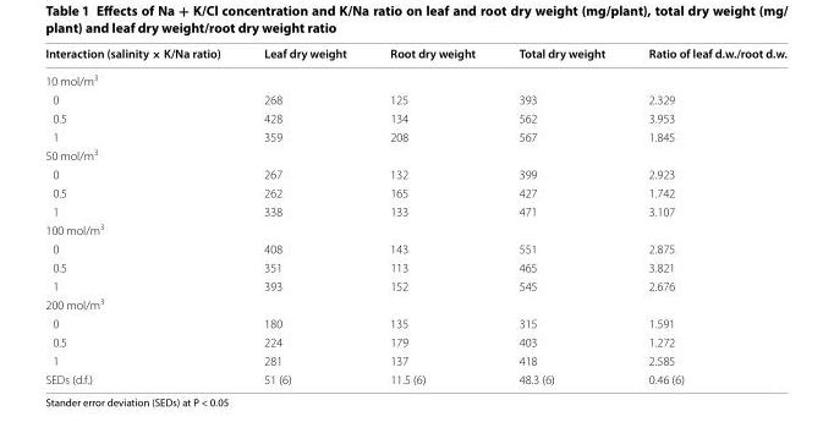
<table><thead><tr><td>Interaction (salinity × K/Na ratio)</td><td>Leaf dry weight</td><td>Root dry weight</td><td>Total dry weight</td><td>Ratio of leaf d.w./root d.w.</td></tr></thead><tbody><tr><td colspan="5">10 mol/m<sup>3</sup></td></tr><tr><td>0</td><td>268</td><td>125</td><td>393</td><td>2.329</td></tr><tr><td>0.5</td><td>428</td><td>134</td><td>562</td><td>3.953</td></tr><tr><td>1</td><td>359</td><td>208</td><td>567</td><td>1.845</td></tr><tr><td colspan="5">50 mol/m<sup>3</sup></td></tr><tr><td>0</td><td>267</td><td>132</td><td>399</td><td>2.923</td></tr><tr><td>0.5</td><td>262</td><td>165</td><td>427</td><td>1.742</td></tr><tr><td>1</td><td>338</td><td>133</td><td>471</td><td>3.107</td></tr><tr><td colspan="5">100 mol/m<sup>3</sup></td></tr><tr><td>0</td><td>408</td><td>143</td><td>551</td><td>2.875</td></tr><tr><td>0.5</td><td>351</td><td>113</td><td>465</td><td>3.821</td></tr><tr><td>1</td><td>393</td><td>152</td><td>545</td><td>2.676</td></tr><tr><td colspan="5">200 mol/m<sup>3</sup></td></tr><tr><td>0</td><td>180</td><td>135</td><td>315</td><td>1.591</td></tr><tr><td>0.5</td><td>224</td><td>179</td><td>403</td><td>1.272</td></tr><tr><td>1</td><td>281</td><td>137</td><td>418</td><td>2.585</td></tr><tr><td>SEDs (d.f.)</td><td>51 (6)</td><td>11.5 (6)</td><td>48.3 (6)</td><td>0.46 (6)</td></tr></tbody></table>